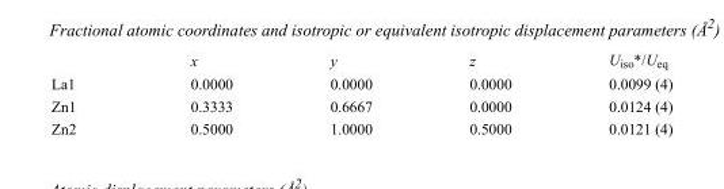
<table><thead><tr><td></td><td>x</td><td>y</td><td>z</td><td>U<sub>iso</sub>*/U<sub>eq</sub></td></tr></thead><tbody><tr><td>La1</td><td>0.0000</td><td>0.0000</td><td>0.0000</td><td>0.0099 (4)</td></tr><tr><td>Zn1</td><td>0.3333</td><td>0.6667</td><td>0.0000</td><td>0.0124 (4)</td></tr><tr><td>Zn2</td><td>0.5000</td><td>1.0000</td><td>0.5000</td><td>0.0121 (4)</td></tr></tbody></table>